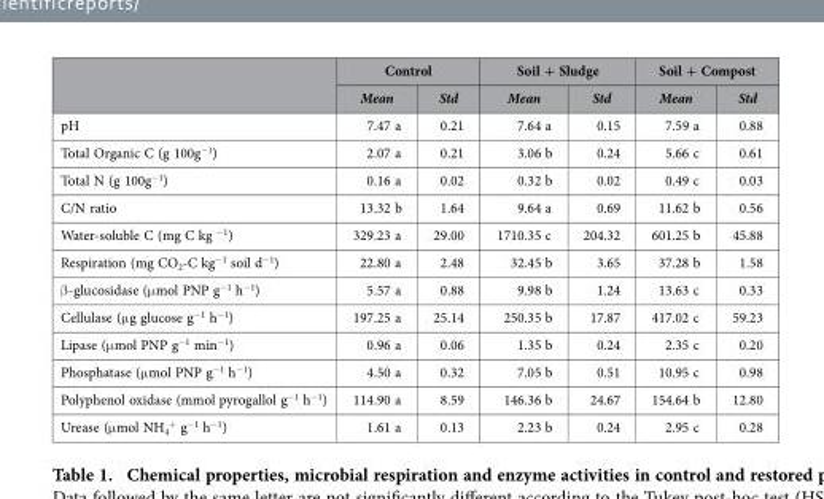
<table><thead><tr><td rowspan="2"></td><td colspan="2">Control</td><td colspan="2">Soil + Sludge</td><td colspan="2">Soil + Compost</td></tr><tr><td>Mean</td><td>Std</td><td>Mean</td><td>Std</td><td>Mean</td><td>Std</td></tr></thead><tbody><tr><td>pH</td><td>7.47 a</td><td>0.21</td><td>7.64 a</td><td>0.15</td><td>7.59 a</td><td>0.88</td></tr><tr><td>Total Organic C (g 100g<sup>−1</sup>)</td><td>2.07 a</td><td>0.21</td><td>3.06 b</td><td>0.24</td><td>5.66 c</td><td>0.61</td></tr><tr><td>Total N (g 100g<sup>−1</sup>)</td><td>0.16 a</td><td>0.02</td><td>0.32 b</td><td>0.02</td><td>0.49 c</td><td>0.03</td></tr><tr><td>C/N ratio</td><td>13.32 b</td><td>1.64</td><td>9.64 a</td><td>0.69</td><td>11.62 b</td><td>0.56</td></tr><tr><td>Water-soluble C (mg C kg <sup>−1</sup>)</td><td>329.23 a</td><td>29.00</td><td>1710.35 c</td><td>204.32</td><td>601.25 b</td><td>45.88</td></tr><tr><td>Respiration (mg CO<sub>2</sub>-C kg<sup>−1</sup> soil d<sup>−1</sup>)</td><td>22.80 a</td><td>2.48</td><td>32.45 b</td><td>3.65</td><td>37.28 b</td><td>1.58</td></tr><tr><td>β -glucosidase (μ mol PNP g<sup>−1</sup> h<sup>−1</sup>)</td><td>5.57 a</td><td>0.88</td><td>9.98 b</td><td>1.24</td><td>13.63 c</td><td>0.33</td></tr><tr><td>Cellulase (μ g glucose g<sup>−1</sup> h<sup>−1</sup>)</td><td>197.25 a</td><td>25.14</td><td>250.35 b</td><td>17.87</td><td>417.02 c</td><td>59.23</td></tr><tr><td>Lipase (μ mol PNP g<sup>−1</sup> min<sup>−1</sup>)</td><td>0.96 a</td><td>0.06</td><td>1.35 b</td><td>0.24</td><td>2.35 c</td><td>0.20</td></tr><tr><td>Phosphatase (μ mol PNP g<sup>−1</sup> h<sup>−1</sup>)</td><td>4.50 a</td><td>0.32</td><td>7.05 b</td><td>0.51</td><td>10.95 c</td><td>0.98</td></tr><tr><td>Polyphenol oxidase (mmol pyrogallol g<sup>−1</sup> h<sup>−1</sup>)</td><td>114.90 a</td><td>8.59</td><td>146.36 b</td><td>24.67</td><td>154.64 b</td><td>12.80</td></tr><tr><td>Urease (μ mol NH<sub>4</sub> <sup>+</sup> g<sup>−1</sup> h<sup>−1</sup>)</td><td>1.61 a</td><td>0.13</td><td>2.23 b</td><td>0.24</td><td>2.95 c</td><td>0.28</td></tr></tbody></table>